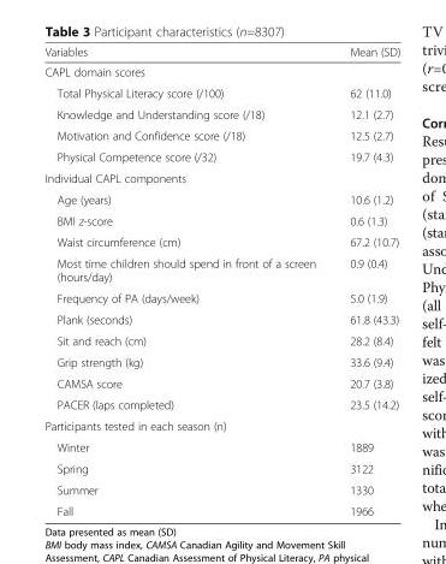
<table><thead><tr><td>Variables</td><td>Mean (SD)</td></tr></thead><tbody><tr><td colspan="2">CAPL domain scores</td></tr><tr><td>Total Physical Literacy score (/100)</td><td>62 (11.0)</td></tr><tr><td>Knowledge and Understanding score (/18)</td><td>12.1 (2.7)</td></tr><tr><td>Motivation and Confidence score (/18)</td><td>12.5 (2.7)</td></tr><tr><td>Physical Competence score (/32)</td><td>19.7 (4.3)</td></tr><tr><td colspan="2">Individual CAPL components</td></tr><tr><td>Age (years)</td><td>10.6 (1.2)</td></tr><tr><td>BMI z-score</td><td>0.6 (1.3)</td></tr><tr><td>Waist circumference (cm)</td><td>67.2 (10.7)</td></tr><tr><td>Most time children should spend in front of a screen (hours/day)</td><td>0.9 (0.4)</td></tr><tr><td>Frequency of PA (days/week)</td><td>5.0 (1.9)</td></tr><tr><td>Plank (seconds)</td><td>61.8 (43.3)</td></tr><tr><td>Sit and reach (cm)</td><td>28.2 (8.4)</td></tr><tr><td>Grip strength (kg)</td><td>33.6 (9.4)</td></tr><tr><td>CAMSA score</td><td>20.7 (3.8)</td></tr><tr><td>PACER (laps completed)</td><td>23.5 (14.2)</td></tr><tr><td colspan="2">Participants tested in each season (n)</td></tr><tr><td>Winter</td><td>1889</td></tr><tr><td>Spring</td><td>3122</td></tr><tr><td>Summer</td><td>1330</td></tr><tr><td>Fall</td><td>1966</td></tr></tbody></table>